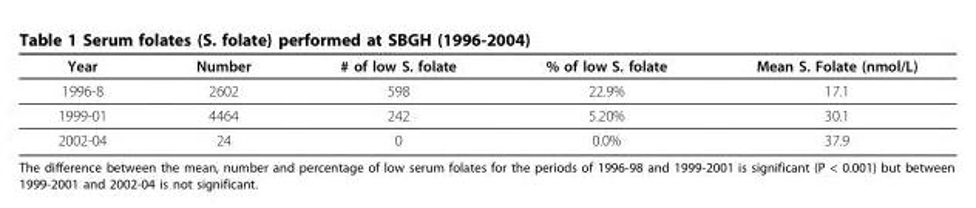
<table><thead><tr><td>Year</td><td>Number</td><td># of low S. folate</td><td>% of low S. folate</td><td>Mean S. Folate (nmol/L)</td></tr></thead><tbody><tr><td>1996-8</td><td>2602</td><td>598</td><td>22.9%</td><td>17.1</td></tr><tr><td>1999-01</td><td>4464</td><td>242</td><td>5.20%</td><td>30.1</td></tr><tr><td>2002-04</td><td>24</td><td>0</td><td>0.0%</td><td>37.9</td></tr></tbody></table>